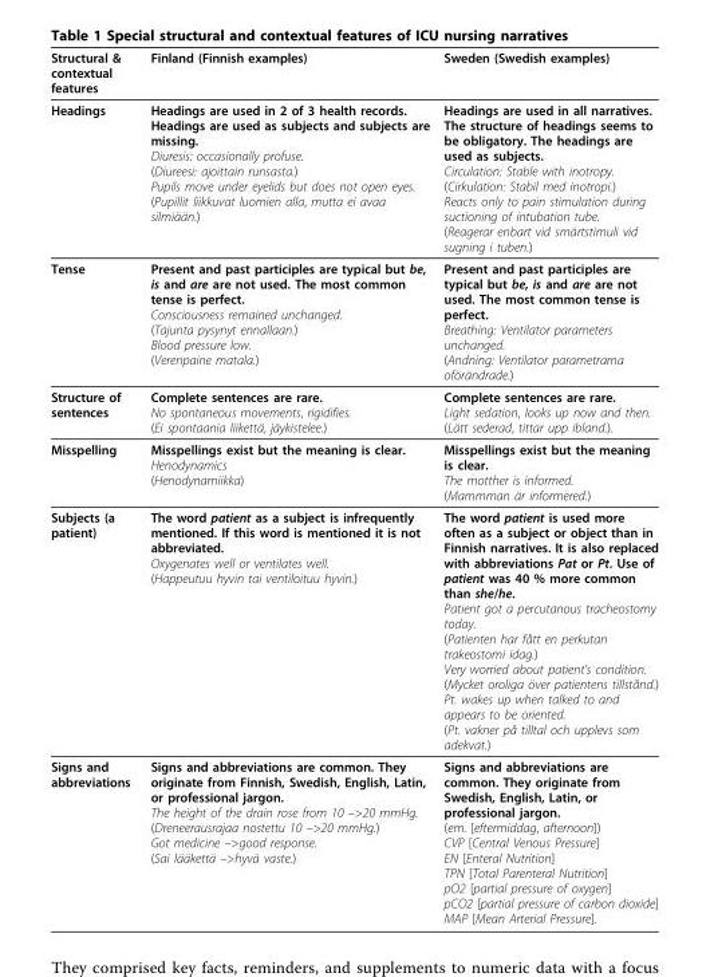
<table><thead><tr><td>Structural &amp; contextual features</td><td>Finland (Finnish examples)</td><td>Sweden (Swedish examples)</td></tr></thead><tbody><tr><td>Headings</td><td>Headings are used in 2 of 3 health records. Headings are used as subjects and subjects are missing. Diuresis: occasionally profuse. (Diureesi: ajoittain runsasta.) Pupils move under eyelids but does not open eyes. (Pupillit liikkuvat luomien alla, mutta ei avaa silmiään.)</td><td>Headings are used in all narratives. The structure of headings seems to be obligatory. The headings are used as subjects. Circulation: Stable with inotropy. (Cirkulation: Stabil med inotropi.) Reacts only to pain stimulation during suctioning of intubation tube. (Reagerar enbart vid smärtstimuli vid sugning i tuben.)</td></tr><tr><td>Tense</td><td>Present and past participles are typical but be, is and are are not used. The most common tense is perfect. Consciousness remained unchanged. (Tajunta pysynyt ennallaan.) Blood pressure low. (Verenpaine matala.)</td><td>Present and past participles are typical but be, is and are are not used. The most common tense is perfect. Breathing: Ventilator parameters unchanged. (Andning: Ventilator parametrarna oförändrade.)</td></tr><tr><td>Structure of sentences</td><td>Complete sentences are rare. No spontaneous movements, rigidifies. (Ei spontaania liikettä, jäykistelee.)</td><td>Complete sentences are rare. Light sedation, looks up now and then. (Lätt sederad, tittar upp ibland.).</td></tr><tr><td>Misspelling</td><td>Misspellings exist but the meaning is clear. Henodynamics (Henodynamiikka)</td><td>Misspellings exist but the meaning is clear. The motther is informed. (Mammman är informered.)</td></tr><tr><td>Subjects (a patient)</td><td>The word patient as a subject is infrequently mentioned. If this word is mentioned it is not abbreviated. Oxygenates well or ventilates well. (Happeutuu hyvin tai ventiloituu hyvin.)</td><td>The word patient is used more often as a subject or object than in Finnish narratives. It is also replaced with abbreviations Pat or Pt. Use of patient was 40 % more common than she/he. Patient got a percutanous tracheostomy today. (Patienten har fått en perkutan trakeostomi idag.) Very worried about patient’s condition. (Mycket oroliga över patientens tillstånd.) Pt. wakes up when talked to and appears to be oriented. (Pt. vakner på tilltal och upplevs som adekvat.)</td></tr><tr><td>Signs and abbreviations</td><td>Signs and abbreviations are common. They originate from Finnish, Swedish, English, Latin, or professional jargon. The height of the drain rose from 10 –&gt;20 mmHg. (Dreneerausrajaa nostettu 10 –&gt;20 mmHg.) Got medicine –&gt;good response. (Sai lääkettä –&gt;hyvä vaste.)</td><td>Signs and abbreviations are common. They originate from Swedish, English, Latin, or professional jargon. (em. [eftermiddag, afternoon]) CVP [Central Venous Pressure] EN [Enteral Nutrition] TPN [Total Parenteral Nutrition] pO2 [partial pressure of oxygen] pCO2 [partial pressure of carbon dioxide] MAP [Mean Arterial Pressure].</td></tr></tbody></table>